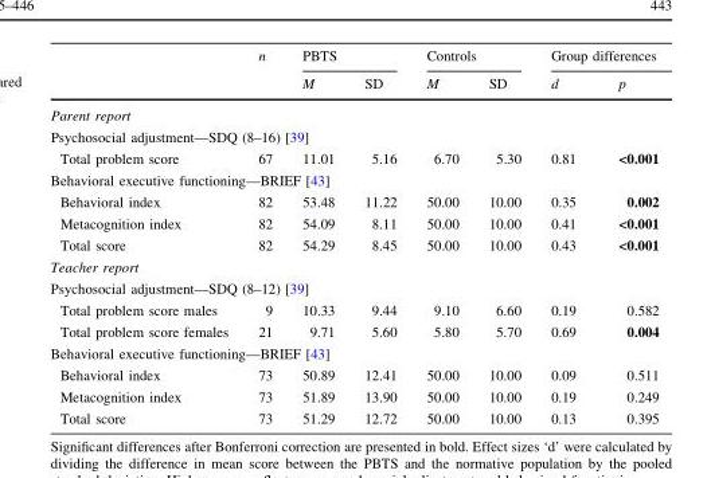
<table><thead><tr><td rowspan="2"></td><td rowspan="2">n</td><td colspan="2">PBTS</td><td colspan="2">Controls</td><td colspan="2">Group differences</td></tr><tr><td>M</td><td>SD</td><td>M</td><td>SD</td><td>d</td><td>p</td></tr></thead><tbody><tr><td colspan="8">Parent report</td></tr><tr><td colspan="8">Psychosocial adjustment—SDQ (8–16) [39]</td></tr><tr><td>Total problem score</td><td>67</td><td>11.01</td><td>5.16</td><td>6.70</td><td>5.30</td><td>0.81</td><td>&lt;0.001</td></tr><tr><td colspan="8">Behavioral executive functioning—BRIEF [43]</td></tr><tr><td>Behavioral index</td><td>82</td><td>53.48</td><td>11.22</td><td>50.00</td><td>10.00</td><td>0.35</td><td>0.002</td></tr><tr><td>Metacognition index</td><td>82</td><td>54.09</td><td>8.11</td><td>50.00</td><td>10.00</td><td>0.41</td><td>&lt;0.001</td></tr><tr><td>Total score</td><td>82</td><td>54.29</td><td>8.45</td><td>50.00</td><td>10.00</td><td>0.43</td><td>&lt;0.001</td></tr><tr><td colspan="8">Teacher report</td></tr><tr><td colspan="8">Psychosocial adjustment—SDQ (8–12) [39]</td></tr><tr><td>Total problem score males</td><td>9</td><td>10.33</td><td>9.44</td><td>9.10</td><td>6.60</td><td>0.19</td><td>0.582</td></tr><tr><td>Total problem score females</td><td>21</td><td>9.71</td><td>5.60</td><td>5.80</td><td>5.70</td><td>0.69</td><td>0.004</td></tr><tr><td colspan="8">Behavioral executive functioning—BRIEF [43]</td></tr><tr><td>Behavioral index</td><td>73</td><td>50.89</td><td>12.41</td><td>50.00</td><td>10.00</td><td>0.09</td><td>0.511</td></tr><tr><td>Metacognition index</td><td>73</td><td>51.89</td><td>13.90</td><td>50.00</td><td>10.00</td><td>0.19</td><td>0.249</td></tr><tr><td>Total score</td><td>73</td><td>51.29</td><td>12.72</td><td>50.00</td><td>10.00</td><td>0.13</td><td>0.395</td></tr></tbody></table>